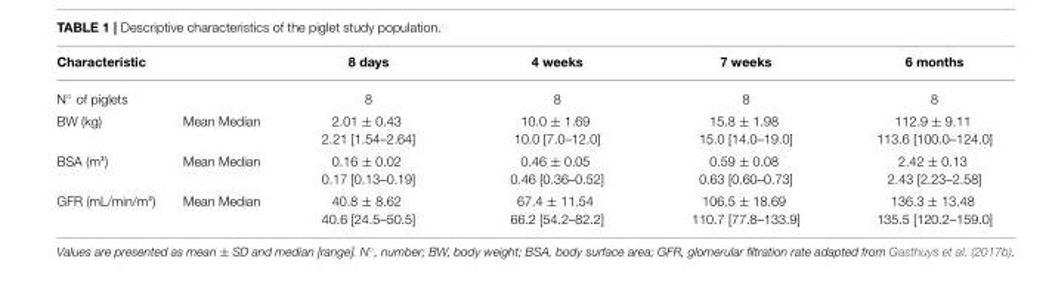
<table><thead><tr><td>Characteristic</td><td></td><td>8 days</td><td>4 weeks</td><td>7 weeks</td><td>6 months</td></tr></thead><tbody><tr><td>N◦ of piglets</td><td></td><td>8</td><td>8</td><td>8</td><td>8</td></tr><tr><td>BW (kg)</td><td>Mean Median</td><td>2.01 ± 0.43 2.21 [1.54–2.64]</td><td>10.0 ± 1.69 10.0 [7.0–12.0]</td><td>15.8 ± 1.98 15.0 [14.0–19.0]</td><td>112.9 ± 9.11 113.6 [100.0–124.0]</td></tr><tr><td>BSA (m²)</td><td>Mean Median</td><td>0.16 ± 0.02 0.17 [0.13–0.19]</td><td>0.46 ± 0.05 0.46 [0.36–0.52]</td><td>0.59 ± 0.08 0.63 [0.60–0.73]</td><td>2.42 ± 0.13 2.43 [2.23–2.58]</td></tr><tr><td>GFR (mL/min/m²)</td><td>Mean Median</td><td>40.8 ± 8.62 40.6 [24.5–50.5]</td><td>67.4 ± 11.54 66.2 [54.2–82.2]</td><td>106.5 ± 18.69 110.7 [77.8–133.9]</td><td>136.3 ± 13.48 135.5 [120.2–159.0]</td></tr></tbody></table>